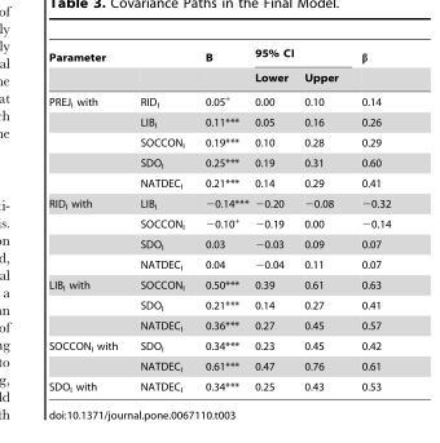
<table><thead><tr><td rowspan="2">Parameter</td><td rowspan="2"></td><td rowspan="2">B</td><td colspan="2">95% CI</td><td rowspan="2">β</td></tr><tr><td>Lower</td><td>Upper</td></tr></thead><tbody><tr><td rowspan="5">PREJ<sub>I</sub> with</td><td>RID<sub>I</sub></td><td>0.05<sup>+</sup></td><td>0.00</td><td>0.10</td><td>0.14</td></tr><tr><td>LIB<sub>I</sub></td><td>0.11***</td><td>0.05</td><td>0.16</td><td>0.26</td></tr><tr><td>SOCCON<sub>I</sub></td><td>0.19***</td><td>0.10</td><td>0.28</td><td>0.29</td></tr><tr><td>SDO<sub>I</sub></td><td>0.25***</td><td>0.19</td><td>0.31</td><td>0.60</td></tr><tr><td>NATDEC<sub>I</sub></td><td>0.21***</td><td>0.14</td><td>0.29</td><td>0.41</td></tr><tr><td rowspan="4">RID<sub>I</sub> with</td><td>LIB<sub>I</sub></td><td>−0.14***</td><td>−0.20</td><td>−0.08</td><td>−0.32</td></tr><tr><td>SOCCON<sub>I</sub></td><td>−0.10<sup>+</sup></td><td>−0.19</td><td>0.00</td><td>−0.14</td></tr><tr><td>SDO<sub>I</sub></td><td>0.03</td><td>−0.03</td><td>0.09</td><td>0.07</td></tr><tr><td>NATDEC<sub>I</sub></td><td>0.04</td><td>−0.04</td><td>0.11</td><td>0.07</td></tr><tr><td rowspan="3">LIB<sub>I</sub> with</td><td>SOCCON<sub>I</sub></td><td>0.50***</td><td>0.39</td><td>0.61</td><td>0.63</td></tr><tr><td>SDO<sub>I</sub></td><td>0.21***</td><td>0.14</td><td>0.27</td><td>0.41</td></tr><tr><td>NATDEC<sub>I</sub></td><td>0.36***</td><td>0.27</td><td>0.45</td><td>0.57</td></tr><tr><td rowspan="2">SOCCON<sub>I</sub> with</td><td>SDO<sub>I</sub></td><td>0.34***</td><td>0.23</td><td>0.45</td><td>0.42</td></tr><tr><td>NATDEC<sub>I</sub></td><td>0.61***</td><td>0.47</td><td>0.76</td><td>0.61</td></tr><tr><td>SDO<sub>I</sub> with</td><td>NATDEC<sub>I</sub></td><td>0.34***</td><td>0.25</td><td>0.43</td><td>0.53</td></tr></tbody></table>